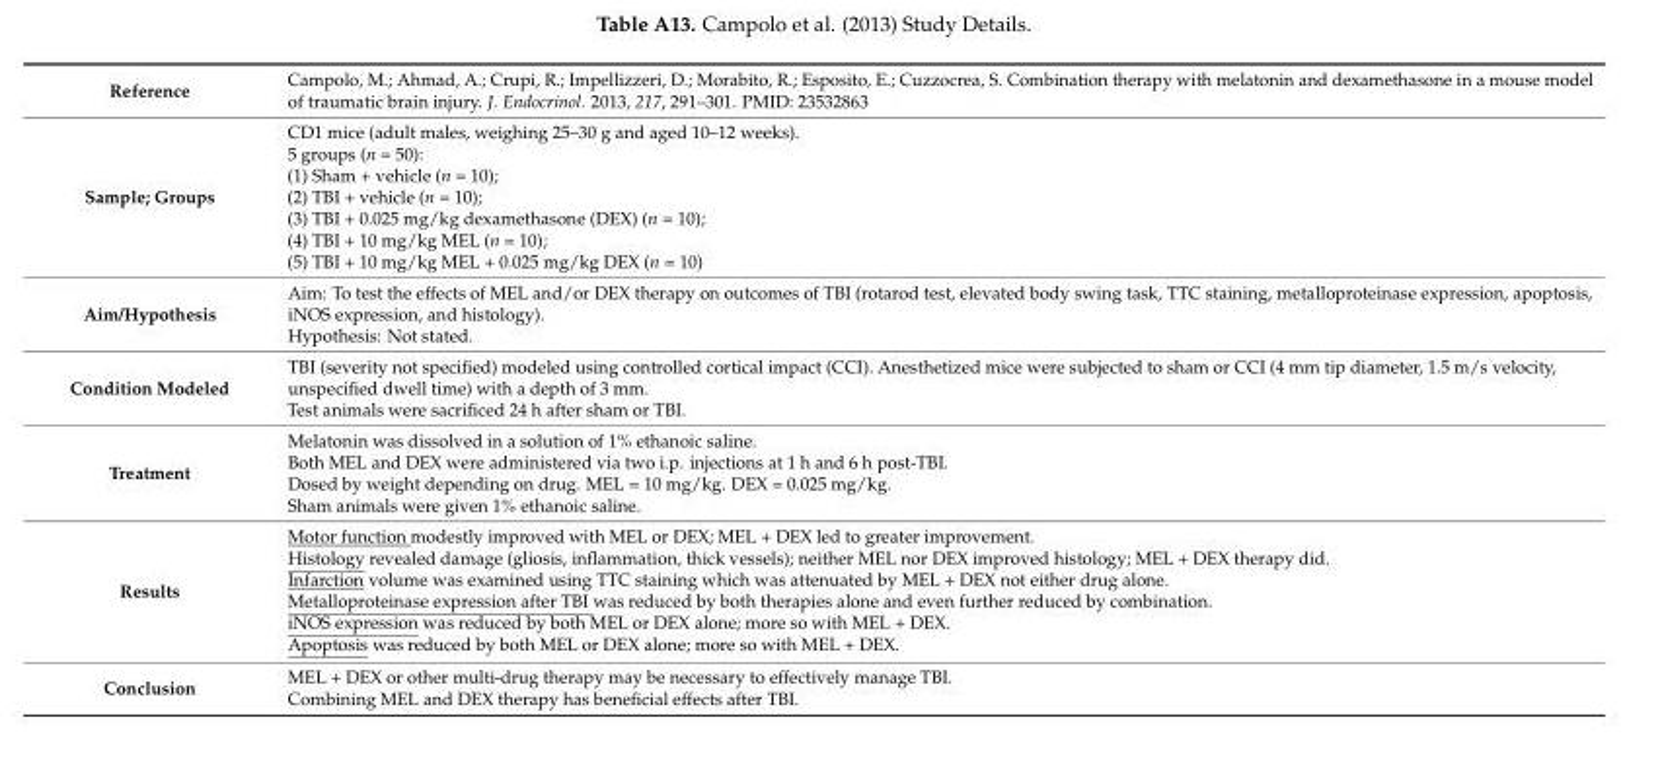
<table><tbody><tr><td>Reference</td><td>Campolo, M.; Ahmad, A.; Crupi, R.; Impellizzeri, D.; Morabito, R.; Esposito, E.; Cuzzocrea, S. Combination therapy with melatonin and dexamethasone in a mouse model of traumatic brain injury. J. Endocrinol. 2013, 217, 291–301. PMID: 23532863</td></tr><tr><td>Sample; Groups</td><td>CD1 mice (adult males, weighing 25–30 g and aged 10–12 weeks). 5 groups (n = 50): (1) Sham + vehicle (n = 10); (2) TBI + vehicle (n = 10); (3) TBI + 0.025 mg/kg dexamethasone (DEX) (n = 10); (4) TBI + 10 mg/kg MEL (n = 10); (5) TBI + 10 mg/kg MEL + 0.025 mg/kg DEX (n = 10)</td></tr><tr><td>Aim/Hypothesis</td><td>Aim: To test the effects of MEL and/or DEX therapy on outcomes of TBI (rotarod test, elevated body swing task, TTC staining, metalloproteinase expression, apoptosis, iNOS expression, and histology). Hypothesis: Not stated.</td></tr><tr><td>Condition Modeled</td><td>TBI (severity not specified) modeled using controlled cortical impact (CCI). Anesthetized mice were subjected to sham or CCI (4 mm tip diameter, 1.5 m/s velocity, unspecified dwell time) with a depth of 3 mm. Test animals were sacrificed 24 h after sham or TBI.</td></tr><tr><td>Treatment</td><td>Melatonin was dissolved in a solution of 1% ethanoic saline. Both MEL and DEX were administered via two i.p. injections at 1 h and 6 h post-TBI. Dosed by weight depending on drug. MEL = 10 mg/kg. DEX = 0.025 mg/kg. Sham animals were given 1% ethanoic saline.</td></tr><tr><td>Results</td><td>Motor function modestly improved with MEL or DEX; MEL + DEX led to greater improvement. Histology revealed damage (gliosis, inflammation, thick vessels); neither MEL nor DEX improved histology; MEL + DEX therapy did. Infarction volume was examined using TTC staining which was attenuated by MEL + DEX not either drug alone. Metalloproteinase expression after TBI was reduced by both therapies alone and even further reduced by combination. iNOS expression was reduced by both MEL or DEX alone; more so with MEL + DEX. Apoptosis was reduced by both MEL or DEX alone; more so with MEL + DEX.</td></tr><tr><td>Conclusion</td><td>MEL + DEX or other multi-drug therapy may be necessary to effectively manage TBI. Combining MEL and DEX therapy has beneficial effects after TBI.</td></tr></tbody></table>